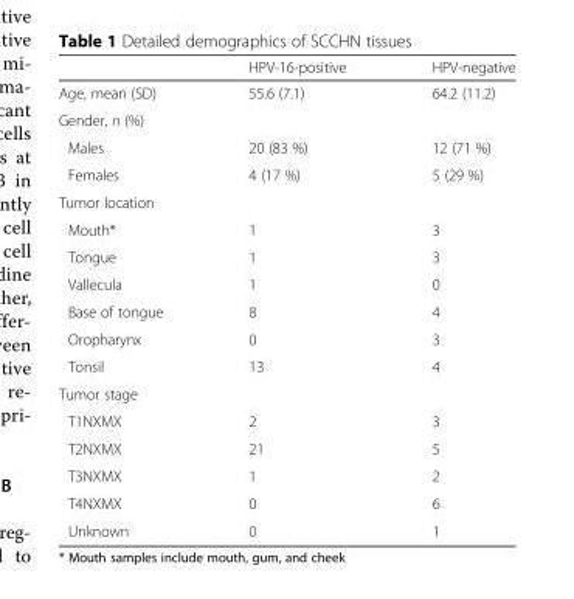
<table><thead><tr><td></td><td>HPV-16-positive</td><td>HPV-negative</td></tr></thead><tbody><tr><td>Age, mean (SD)</td><td>55.6 (7.1)</td><td>64.2 (11.2)</td></tr><tr><td colspan="3">Gender, n (%)</td></tr><tr><td>Males</td><td>20 (83 %)</td><td>12 (71 %)</td></tr><tr><td>Females</td><td>4 (17 %)</td><td>5 (29 %)</td></tr><tr><td colspan="3">Tumor location</td></tr><tr><td>Mouth*</td><td>1</td><td>3</td></tr><tr><td>Tongue</td><td>1</td><td>3</td></tr><tr><td>Vallecula</td><td>1</td><td>0</td></tr><tr><td>Base of tongue</td><td>8</td><td>4</td></tr><tr><td>Oropharynx</td><td>0</td><td>3</td></tr><tr><td>Tonsil</td><td>13</td><td>4</td></tr><tr><td colspan="3">Tumor stage</td></tr><tr><td>T1NXMX</td><td>2</td><td>3</td></tr><tr><td>T2NXMX</td><td>21</td><td>5</td></tr><tr><td>T3NXMX</td><td>1</td><td>2</td></tr><tr><td>T4NXMX</td><td>0</td><td>6</td></tr><tr><td>Unknown</td><td>0</td><td>1</td></tr></tbody></table>